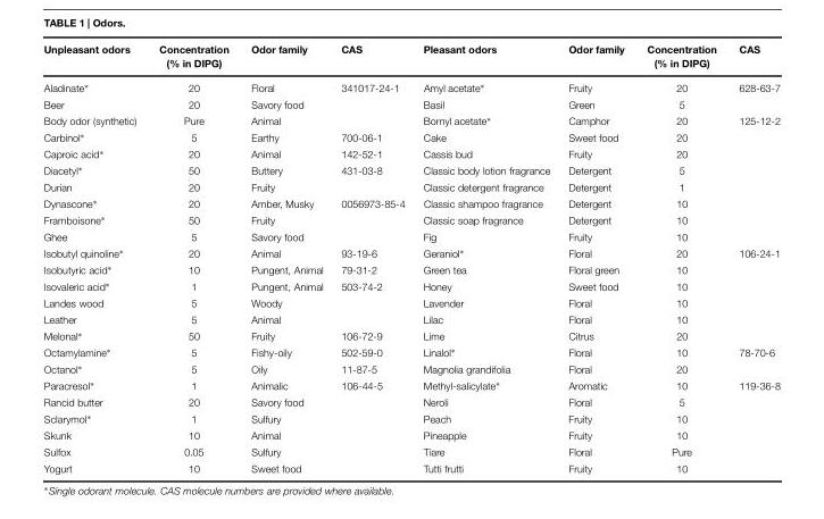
<table><thead><tr><td>Unpleasant odors</td><td>Concentration (% in DIPG)</td><td>Odor family</td><td>CAS</td><td>Pleasant odors</td><td>Odor family</td><td>Concentration (% in DIPG)</td><td>CAS</td></tr></thead><tbody><tr><td>Aladinate∗</td><td>20</td><td>Floral</td><td>341017-24-1</td><td>Amyl acetate∗</td><td>Fruity</td><td>20</td><td>628-63-7</td></tr><tr><td>Beer</td><td>20</td><td>Savory food</td><td></td><td>Basil</td><td>Green</td><td>5</td><td></td></tr><tr><td>Body odor (synthetic)</td><td>Pure</td><td>Animal</td><td></td><td>Bornyl acetate∗</td><td>Camphor</td><td>20</td><td>125-12-2</td></tr><tr><td>Carbinol∗</td><td>5</td><td>Earthy</td><td>700-06-1</td><td>Cake</td><td>Sweet food</td><td>20</td><td></td></tr><tr><td>Caproic acid∗</td><td>20</td><td>Animal</td><td>142-52-1</td><td>Cassis bud</td><td>Fruity</td><td>20</td><td></td></tr><tr><td>Diacetyl∗</td><td>50</td><td>Buttery</td><td>431-03-8</td><td>Classic body lotion fragrance</td><td>Detergent</td><td>5</td><td></td></tr><tr><td>Durian</td><td>20</td><td>Fruity</td><td></td><td>Classic detergent fragrance</td><td>Detergent</td><td>1</td><td></td></tr><tr><td>Dynascone∗</td><td>20</td><td>Amber, Musky</td><td>0056973-85-4</td><td>Classic shampoo fragrance</td><td>Detergent</td><td>10</td><td></td></tr><tr><td>Framboisone∗</td><td>50</td><td>Fruity</td><td></td><td>Classic soap fragrance</td><td>Detergent</td><td>10</td><td></td></tr><tr><td>Ghee</td><td>5</td><td>Savory food</td><td></td><td>Fig</td><td>Fruity</td><td>10</td><td></td></tr><tr><td>Isobutyl quinoline∗</td><td>20</td><td>Animal</td><td>93-19-6</td><td>Geraniol∗</td><td>Floral</td><td>20</td><td>106-24-1</td></tr><tr><td>Isobutyric acid∗</td><td>10</td><td>Pungent, Animal</td><td>79-31-2</td><td>Green tea</td><td>Floral green</td><td>10</td><td></td></tr><tr><td>Isovaleric acid∗</td><td>1</td><td>Pungent, Animal</td><td>503-74-2</td><td>Honey</td><td>Sweet food</td><td>10</td><td></td></tr><tr><td>Landes wood</td><td>5</td><td>Woody</td><td></td><td>Lavender</td><td>Floral</td><td>10</td><td></td></tr><tr><td>Leather</td><td>5</td><td>Animal</td><td></td><td>Lilac</td><td>Floral</td><td>10</td><td></td></tr><tr><td>Melonal∗</td><td>50</td><td>Fruity</td><td>106-72-9</td><td>Lime</td><td>Citrus</td><td>20</td><td></td></tr><tr><td>Octamylamine∗</td><td>5</td><td>Fishy-oily</td><td>502-59-0</td><td>Linalol∗</td><td>Floral</td><td>10</td><td>78-70-6</td></tr><tr><td>Octanol∗</td><td>5</td><td>Oily</td><td>11-87-5</td><td>Magnolia grandifolia</td><td>Floral</td><td>20</td><td></td></tr><tr><td>Paracresol∗</td><td>1</td><td>Animalic</td><td>106-44-5</td><td>Methyl-salicylate∗</td><td>Aromatic</td><td>10</td><td>119-36-8</td></tr><tr><td>Rancid butter</td><td>20</td><td>Savory food</td><td></td><td>Neroli</td><td>Floral</td><td>5</td><td></td></tr><tr><td>Sclarymol∗</td><td>1</td><td>Sulfury</td><td></td><td>Peach</td><td>Fruity</td><td>10</td><td></td></tr><tr><td>Skunk</td><td>10</td><td>Animal</td><td></td><td>Pineapple</td><td>Fruity</td><td>10</td><td></td></tr><tr><td>Sulfox</td><td>0.05</td><td>Sulfury</td><td></td><td>Tiare</td><td>Floral</td><td>Pure</td><td></td></tr><tr><td>Yogurt</td><td>10</td><td>Sweet food</td><td></td><td>Tutti frutti</td><td>Fruity</td><td>10</td><td></td></tr></tbody></table>